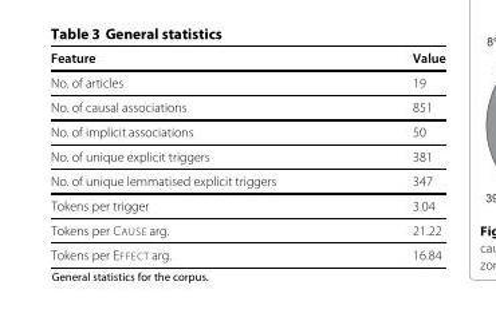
<table><thead><tr><td>Feature</td><td>Value</td></tr></thead><tbody><tr><td>No. of articles</td><td>19</td></tr><tr><td>No. of causal associations</td><td>851</td></tr><tr><td>No. of implicit associations</td><td>50</td></tr><tr><td>No. of unique explicit triggers</td><td>381</td></tr><tr><td>No. of unique lemmatised explicit triggers</td><td>347</td></tr><tr><td>Tokens per trigger</td><td>3.04</td></tr><tr><td>Tokens per CAUSE arg.</td><td>21.22</td></tr><tr><td>Tokens per EFFECT arg.</td><td>16.84</td></tr></tbody></table>